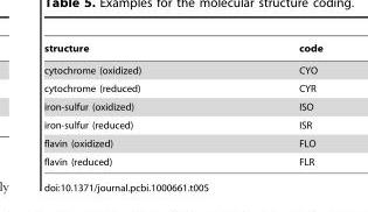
<table><thead><tr><td>structure</td><td>code</td></tr></thead><tbody><tr><td>cytochrome (oxidized)</td><td>CYO</td></tr><tr><td>cytochrome (reduced)</td><td>CYR</td></tr><tr><td>iron-sulfur (oxidized)</td><td>ISO</td></tr><tr><td>iron-sulfur (reduced)</td><td>ISR</td></tr><tr><td>flavin (oxidized)</td><td>FLO</td></tr><tr><td>flavin (reduced)</td><td>FLR</td></tr></tbody></table>